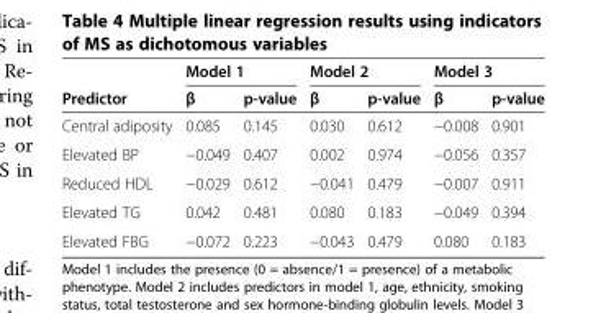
<table><thead><tr><td rowspan="2">Predictor</td><td colspan="2">Model 1</td><td colspan="2">Model 2</td><td colspan="2">Model 3</td></tr><tr><td>β</td><td>p-value</td><td>β</td><td>p-value</td><td>β</td><td>p-value</td></tr></thead><tbody><tr><td>Central adiposity</td><td>0.085</td><td>0.145</td><td>0.030</td><td>0.612</td><td>−0.008</td><td>0.901</td></tr><tr><td>Elevated BP</td><td>−0.049</td><td>0.407</td><td>0.002</td><td>0.974</td><td>−0.056</td><td>0.357</td></tr><tr><td>Reduced HDL</td><td>−0.029</td><td>0.612</td><td>−0.041</td><td>0.479</td><td>−0.007</td><td>0.911</td></tr><tr><td>Elevated TG</td><td>0.042</td><td>0.481</td><td>0.080</td><td>0.183</td><td>−0.049</td><td>0.394</td></tr><tr><td>Elevated FBG</td><td>−0.072</td><td>0.223</td><td>−0.043</td><td>0.479</td><td>0.080</td><td>0.183</td></tr></tbody></table>